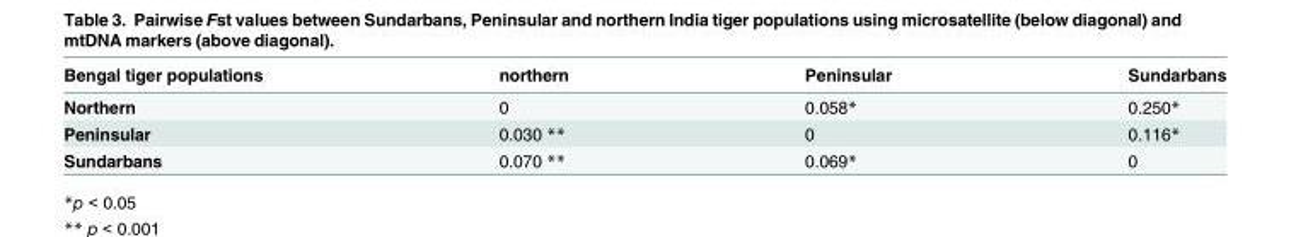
<table><thead><tr><td>Bengal tiger populations</td><td>northern</td><td>Peninsular</td><td>Sundarbans</td></tr></thead><tbody><tr><td>Northern</td><td>0</td><td>0.058*</td><td>0.250*</td></tr><tr><td>Peninsular</td><td>0.030 **</td><td>0</td><td>0.116*</td></tr><tr><td>Sundarbans</td><td>0.070 **</td><td>0.069*</td><td>0</td></tr></tbody></table>